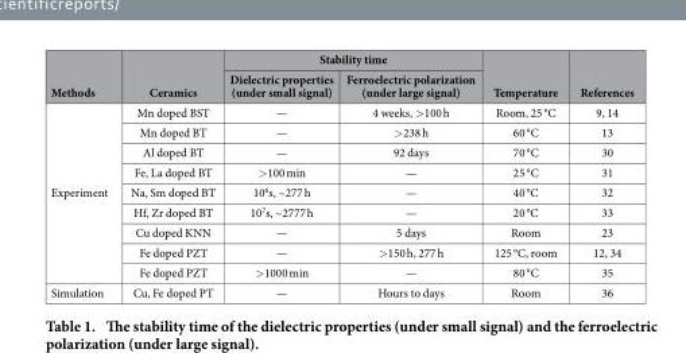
<table><thead><tr><td rowspan="2">Methods</td><td rowspan="2">Ceramics</td><td colspan="2">Stability time</td><td rowspan="2">Temperature</td><td rowspan="2">References</td></tr><tr><td>Dielectric properties (under small signal)</td><td>Ferroelectric polarization (under large signal)</td></tr></thead><tbody><tr><td rowspan="9">Experiment</td><td>Mn doped BST</td><td>—</td><td>4 weeks, &gt; 100 h</td><td>Room, 25 °C</td><td>9, 14</td></tr><tr><td>Mn doped BT</td><td>—</td><td>&gt; 238 h</td><td>60 °C</td><td>13</td></tr><tr><td>Al doped BT</td><td>—</td><td>92 days</td><td>70 °C</td><td>30</td></tr><tr><td>Fe, La doped BT</td><td>&gt; 100 min</td><td>—</td><td>25 °C</td><td>31</td></tr><tr><td>Na, Sm doped BT</td><td>10<sup>6</sup>s, ~277 h</td><td>—</td><td>40 °C</td><td>32</td></tr><tr><td>Hf, Zr doped BT</td><td>10<sup>7</sup>s, ~2777 h</td><td>—</td><td>20 °C</td><td>33</td></tr><tr><td>Cu doped KNN</td><td>—</td><td>5 days</td><td>Room</td><td>23</td></tr><tr><td>Fe doped PZT</td><td>—</td><td>&gt; 150 h, 277 h</td><td>125 °C, room</td><td>12, 34</td></tr><tr><td>Fe doped PZT</td><td>&gt; 1000 min</td><td>—</td><td>80 °C</td><td>35</td></tr><tr><td>Simulation</td><td>Cu, Fe doped PT</td><td>—</td><td>Hours to days</td><td>Room</td><td>36</td></tr></tbody></table>